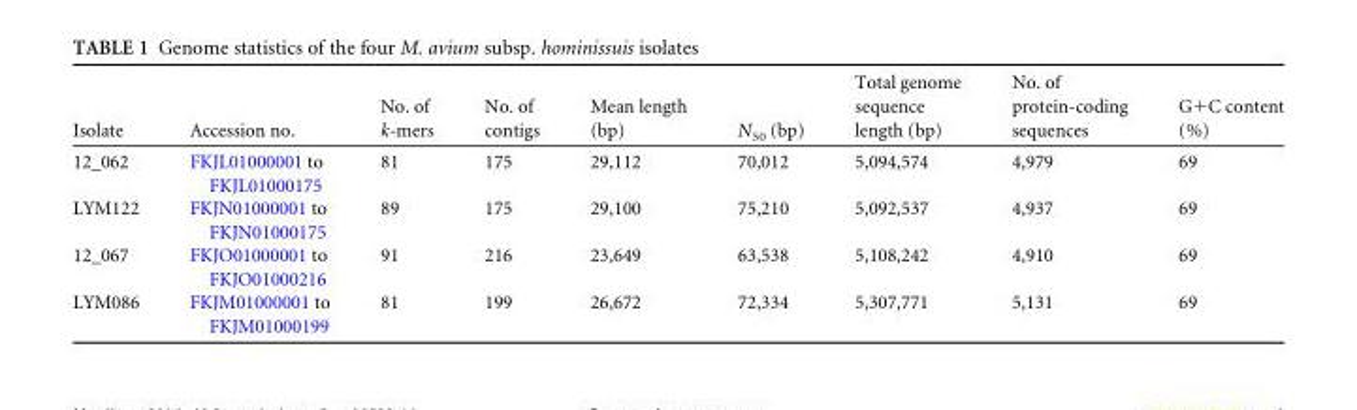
<table><thead><tr><td>Isolate</td><td>Accession no.</td><td>No. of k-mers</td><td>No. of contigs</td><td>Mean length (bp)</td><td>N<sub>50</sub> (bp)</td><td>Total genome sequence length (bp)</td><td>No. of protein-coding sequences</td><td>G+C content (%)</td></tr></thead><tbody><tr><td>12_062</td><td>FKJL01000001 to FKJL01000175</td><td>81</td><td>175</td><td>29,112</td><td>70,012</td><td>5,094,574</td><td>4,979</td><td>69</td></tr><tr><td>LYM122</td><td>FKJN01000001 to FKJN01000175</td><td>89</td><td>175</td><td>29,100</td><td>75,210</td><td>5,092,537</td><td>4,937</td><td>69</td></tr><tr><td>12_067</td><td>FKJO01000001 to FKJO01000216</td><td>91</td><td>216</td><td>23,649</td><td>63,538</td><td>5,108,242</td><td>4,910</td><td>69</td></tr><tr><td>LYM086</td><td>FKJM01000001 to FKJM01000199</td><td>81</td><td>199</td><td>26,672</td><td>72,334</td><td>5,307,771</td><td>5,131</td><td>69</td></tr></tbody></table>